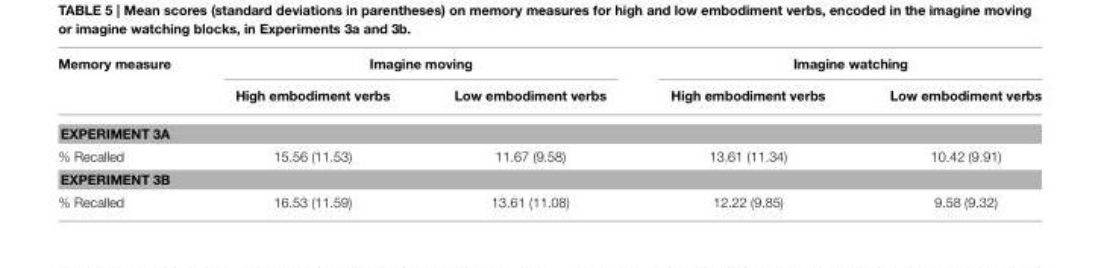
<table><thead><tr><td rowspan="2">Memory measure</td><td colspan="2">Imagine moving</td><td colspan="2">Imagine watching</td></tr><tr><td>High embodiment verbs</td><td>Low embodiment verbs</td><td>High embodiment verbs</td><td>Low embodiment verbs</td></tr></thead><tbody><tr><td colspan="5">EXPERIMENT 3A</td></tr><tr><td>% Recalled</td><td>15.56 (11.53)</td><td>11.67 (9.58)</td><td>13.61 (11.34)</td><td>10.42 (9.91)</td></tr><tr><td colspan="5">EXPERIMENT 3B</td></tr><tr><td>% Recalled</td><td>16.53 (11.59)</td><td>13.61 (11.08)</td><td>12.22 (9.85)</td><td>9.58 (9.32)</td></tr></tbody></table>